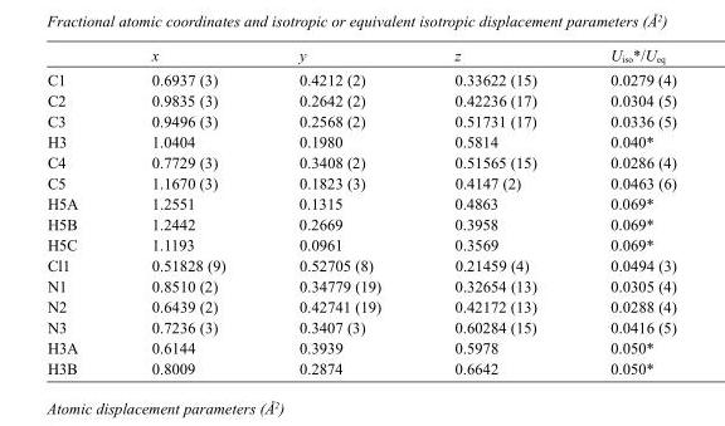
<table><thead><tr><td></td><td>x</td><td>y</td><td>z</td><td>U<sub>iso</sub>*/U<sub>eq</sub></td></tr></thead><tbody><tr><td>C1</td><td>0.6937 (3)</td><td>0.4212 (2)</td><td>0.33622 (15)</td><td>0.0279 (4)</td></tr><tr><td>C2</td><td>0.9835 (3)</td><td>0.2642 (2)</td><td>0.42236 (17)</td><td>0.0304 (5)</td></tr><tr><td>C3</td><td>0.9496 (3)</td><td>0.2568 (2)</td><td>0.51731 (17)</td><td>0.0336 (5)</td></tr><tr><td>H3</td><td>1.0404</td><td>0.1980</td><td>0.5814</td><td>0.040*</td></tr><tr><td>C4</td><td>0.7729 (3)</td><td>0.3408 (2)</td><td>0.51565 (15)</td><td>0.0286 (4)</td></tr><tr><td>C5</td><td>1.1670 (3)</td><td>0.1823 (3)</td><td>0.4147 (2)</td><td>0.0463 (6)</td></tr><tr><td>H5A</td><td>1.2551</td><td>0.1315</td><td>0.4863</td><td>0.069*</td></tr><tr><td>H5B</td><td>1.2442</td><td>0.2669</td><td>0.3958</td><td>0.069*</td></tr><tr><td>H5C</td><td>1.1193</td><td>0.0961</td><td>0.3569</td><td>0.069*</td></tr><tr><td>Cl1</td><td>0.51828 (9)</td><td>0.52705 (8)</td><td>0.21459 (4)</td><td>0.0494 (3)</td></tr><tr><td>N1</td><td>0.8510 (2)</td><td>0.34779 (19)</td><td>0.32654 (13)</td><td>0.0305 (4)</td></tr><tr><td>N2</td><td>0.6439 (2)</td><td>0.42741 (19)</td><td>0.42172 (13)</td><td>0.0288 (4)</td></tr><tr><td>N3</td><td>0.7236 (3)</td><td>0.3407 (3)</td><td>0.60284 (15)</td><td>0.0416 (5)</td></tr><tr><td>H3A</td><td>0.6144</td><td>0.3939</td><td>0.5978</td><td>0.050*</td></tr><tr><td>H3B</td><td>0.8009</td><td>0.2874</td><td>0.6642</td><td>0.050*</td></tr></tbody></table>